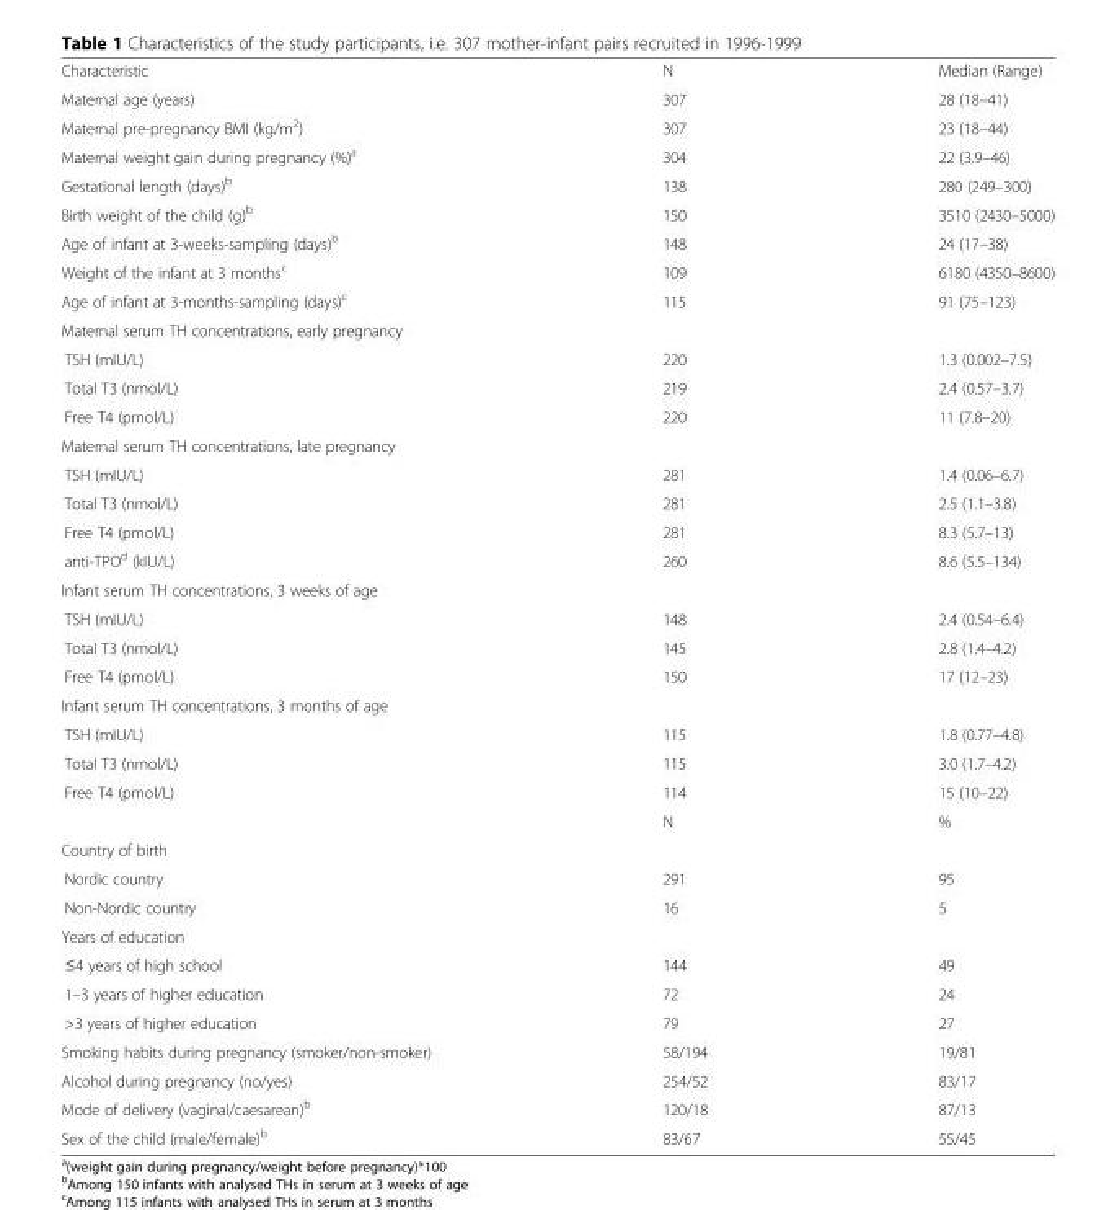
<table><tbody><tr><td>Characteristic</td><td>N</td><td>Median (Range)</td></tr><tr><td>Maternal age (years)</td><td>307</td><td>28 (18–41)</td></tr><tr><td>Maternal pre-pregnancy BMI (kg/m<sup>2</sup>)</td><td>307</td><td>23 (18–44)</td></tr><tr><td>Maternal weight gain during pregnancy (%)<sup>a</sup></td><td>304</td><td>22 (3.9–46)</td></tr><tr><td>Gestational length (days)<sup>b</sup></td><td>138</td><td>280 (249–300)</td></tr><tr><td>Birth weight of the child (g)<sup>b</sup></td><td>150</td><td>3510 (2430–5000)</td></tr><tr><td>Age of infant at 3-weeks-sampling (days)<sup>b</sup></td><td>148</td><td>24 (17–38)</td></tr><tr><td>Weight of the infant at 3 months<sup>c</sup></td><td>109</td><td>6180 (4350–8600)</td></tr><tr><td>Age of infant at 3-months-sampling (days)<sup>c</sup></td><td>115</td><td>91 (75–123)</td></tr><tr><td colspan="3">Maternal serum TH concentrations, early pregnancy</td></tr><tr><td>TSH (mIU/L)</td><td>220</td><td>1.3 (0.002–7.5)</td></tr><tr><td>Total T3 (nmol/L)</td><td>219</td><td>2.4 (0.57–3.7)</td></tr><tr><td>Free T4 (pmol/L)</td><td>220</td><td>11 (7.8–20)</td></tr><tr><td colspan="3">Maternal serum TH concentrations, late pregnancy</td></tr><tr><td>TSH (mIU/L)</td><td>281</td><td>1.4 (0.06–6.7)</td></tr><tr><td>Total T3 (nmol/L)</td><td>281</td><td>2.5 (1.1–3.8)</td></tr><tr><td>Free T4 (pmol/L)</td><td>281</td><td>8.3 (5.7–13)</td></tr><tr><td>anti-TPO<sup>d</sup> (kIU/L)</td><td>260</td><td>8.6 (5.5–134)</td></tr><tr><td colspan="3">Infant serum TH concentrations, 3 weeks of age</td></tr><tr><td>TSH (mIU/L)</td><td>148</td><td>2.4 (0.54–6.4)</td></tr><tr><td>Total T3 (nmol/L)</td><td>145</td><td>2.8 (1.4–4.2)</td></tr><tr><td>Free T4 (pmol/L)</td><td>150</td><td>17 (12–23)</td></tr><tr><td colspan="3">Infant serum TH concentrations, 3 months of age</td></tr><tr><td>TSH (mIU/L)</td><td>115</td><td>1.8 (0.77–4.8)</td></tr><tr><td>Total T3 (nmol/L)</td><td>115</td><td>3.0 (1.7–4.2)</td></tr><tr><td rowspan="2">Free T4 (pmol/L)</td><td>114</td><td>15 (10–22)</td></tr><tr><td>N</td><td>%</td></tr><tr><td colspan="3">Country of birth</td></tr><tr><td>Nordic country</td><td>291</td><td>95</td></tr><tr><td>Non-Nordic country</td><td>16</td><td>5</td></tr><tr><td colspan="3">Years of education</td></tr><tr><td>≤4 years of high school</td><td>144</td><td>49</td></tr><tr><td>1–3 years of higher education</td><td>72</td><td>24</td></tr><tr><td>&gt;3 years of higher education</td><td>79</td><td>27</td></tr><tr><td>Smoking habits during pregnancy (smoker/non-smoker)</td><td>58/194</td><td>19/81</td></tr><tr><td>Alcohol during pregnancy (no/yes)</td><td>254/52</td><td>83/17</td></tr><tr><td>Mode of delivery (vaginal/caesarean)<sup>b</sup></td><td>120/18</td><td>87/13</td></tr><tr><td>Sex of the child (male/female)<sup>b</sup></td><td>83/67</td><td>55/45</td></tr></tbody></table>